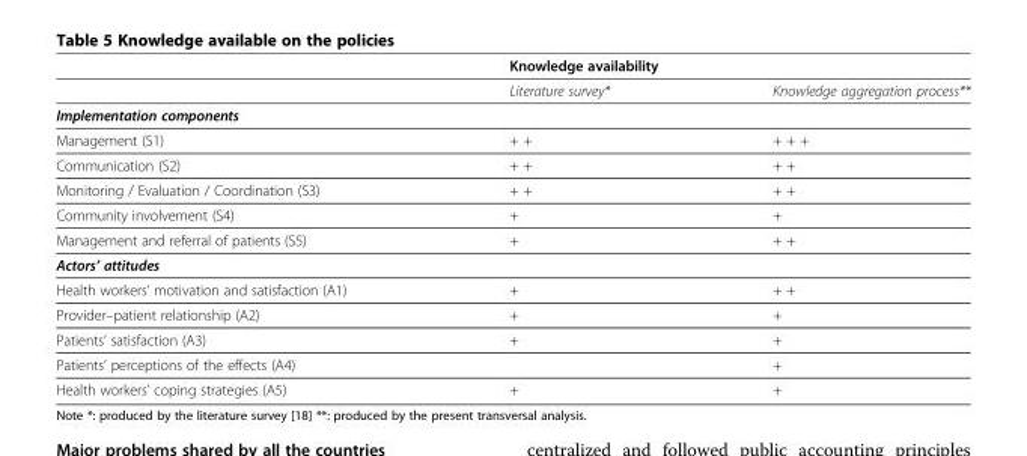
<table><thead><tr><td rowspan="2"></td><td colspan="2">Knowledge availability</td></tr><tr><td>Literature survey*</td><td>Knowledge aggregation process**</td></tr></thead><tbody><tr><td colspan="3">Implementation components</td></tr><tr><td>Management (S1)</td><td>+ +</td><td>+ + +</td></tr><tr><td>Communication (S2)</td><td>+ +</td><td>+ +</td></tr><tr><td>Monitoring / Evaluation / Coordination (S3)</td><td>+ +</td><td>+ +</td></tr><tr><td>Community involvement (S4)</td><td>+</td><td>+</td></tr><tr><td>Management and referral of patients (S5)</td><td>+</td><td>+ +</td></tr><tr><td colspan="3">Actors’ attitudes</td></tr><tr><td>Health workers’ motivation and satisfaction (A1)</td><td>+</td><td>+ +</td></tr><tr><td>Provider–patient relationship (A2)</td><td>+</td><td>+</td></tr><tr><td>Patients’ satisfaction (A3)</td><td>+</td><td>+</td></tr><tr><td>Patients’ perceptions of the effects (A4)</td><td></td><td>+</td></tr><tr><td>Health workers’ coping strategies (A5)</td><td>+</td><td>+</td></tr></tbody></table>